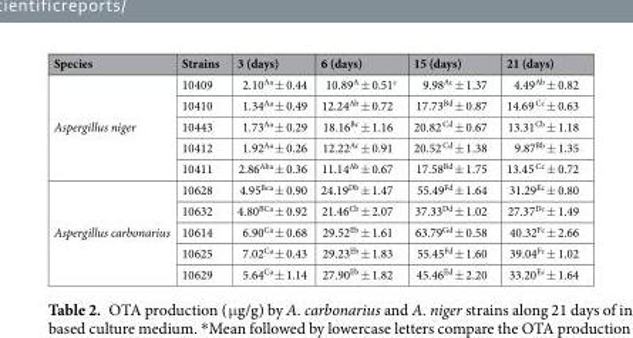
<table><thead><tr><td>Species</td><td>Strains</td><td>3 (days)</td><td>6 (days)</td><td>15 (days)</td><td>21 (days)</td></tr></thead><tbody><tr><td rowspan="5">Aspergillus niger</td><td>10409</td><td>2.10<sup>Aa</sup> ± 0.44</td><td>10.89<sup>A</sup> ± 0.51<sup>c</sup></td><td>9.98<sup>Ac</sup> ± 1.37</td><td>4.49<sup>Ab</sup> ± 0.82</td></tr><tr><td>10410</td><td>1.34<sup>Aa</sup> ± 0.49</td><td>12.24<sup>Ab</sup> ± 0.72</td><td>17.73<sup>Bd</sup> ± 0.87</td><td>14.69 <sup>Cc</sup> ± 0.63</td></tr><tr><td>10443</td><td>1.73<sup>Aa</sup> ± 0.29</td><td>18.16<sup>Bc</sup> ± 1.16</td><td>20.82 <sup>Cd</sup> ± 0.67</td><td>13.31<sup>Cb</sup> ± 1.18</td></tr><tr><td>10412</td><td>1.92<sup>Aa</sup> ± 0.26</td><td>12.22<sup>Ac</sup> ± 0.91</td><td>20.52 <sup>Cd</sup> ± 1.38</td><td>9.87<sup>Bb</sup> ± 1.35</td></tr><tr><td>10411</td><td>2.86<sup>Aba</sup> ± 0.36</td><td>11.14<sup>Ab</sup> ± 0.67</td><td>17.58<sup>Bd</sup> ± 1.75</td><td>13.45 <sup>Cc</sup> ± 0.72</td></tr><tr><td rowspan="5">Aspergillus carbonarius</td><td>10628</td><td>4.95<sup>Bca</sup> ± 0.90</td><td>24.19<sup>Db</sup> ± 1.47</td><td>55.49<sup>Fd</sup> ± 1.64</td><td>31.29<sup>Ec</sup> ± 0.80</td></tr><tr><td>10632</td><td>4.80<sup>BCa</sup> ± 0.92</td><td>21.46<sup>Cb</sup> ± 2.07</td><td>37.33<sup>Dd</sup> ± 1.02</td><td>27.37<sup>Dc</sup> ± 1.49</td></tr><tr><td>10614</td><td>6.90<sup>Ca</sup> ± 0.68</td><td>29.52<sup>Eb</sup> ± 1.61</td><td>63.79<sup>Gd</sup> ± 0.58</td><td>40.32<sup>Fc</sup> ± 2.66</td></tr><tr><td>10625</td><td>7.02<sup>Ca</sup> ± 0.43</td><td>29.23<sup>Eb</sup> ± 1.83</td><td>55.45<sup>Fd</sup> ± 1.60</td><td>39.04<sup>Fc</sup> ± 1.02</td></tr><tr><td>10629</td><td>5.64<sup>Ca</sup> ± 1.14</td><td>27.90<sup>Eb</sup> ± 1.82</td><td>45.46<sup>Ed</sup> ± 2.20</td><td>33.20<sup>Ec</sup> ± 1.64</td></tr></tbody></table>